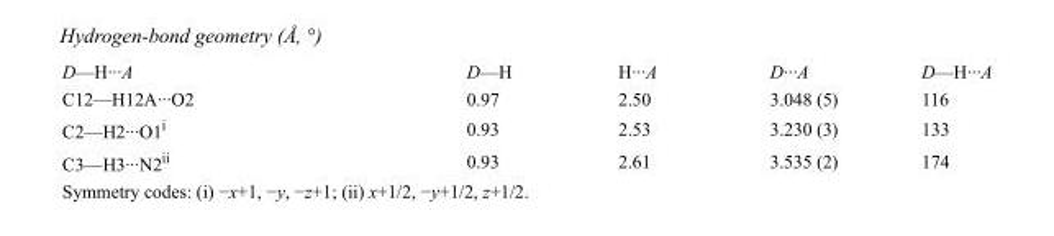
<table><tbody><tr><td>D—H···A</td><td>D—H</td><td>H···A</td><td>D···A</td><td>D—H···A</td></tr><tr><td>C12—H12A···O2</td><td>0.97</td><td>2.50</td><td>3.048 (5)</td><td>116</td></tr><tr><td>C2—H2···O1<sup>i</sup></td><td>0.93</td><td>2.53</td><td>3.230 (3)</td><td>133</td></tr><tr><td>C3—H3···N2<sup>ii</sup></td><td>0.93</td><td>2.61</td><td>3.535 (2)</td><td>174</td></tr></tbody></table>